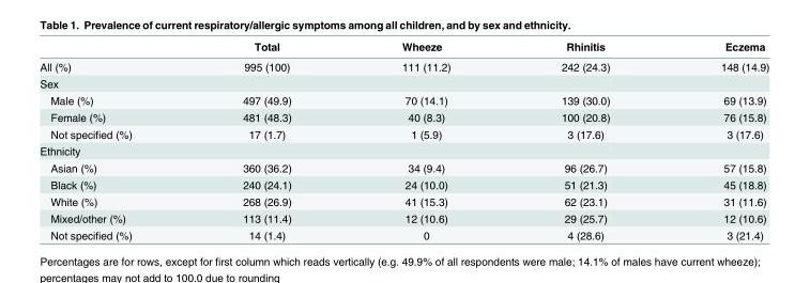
<table><thead><tr><td></td><td>Total</td><td>Wheeze</td><td>Rhinitis</td><td>Eczema</td></tr></thead><tbody><tr><td>All (%)</td><td>995 (100)</td><td>111 (11.2)</td><td>242 (24.3)</td><td>148 (14.9)</td></tr><tr><td colspan="5">Sex</td></tr><tr><td>Male (%)</td><td>497 (49.9)</td><td>70 (14.1)</td><td>139 (30.0)</td><td>69 (13.9)</td></tr><tr><td>Female (%)</td><td>481 (48.3)</td><td>40 (8.3)</td><td>100 (20.8)</td><td>76 (15.8)</td></tr><tr><td>Not specified (%)</td><td>17 (1.7)</td><td>1 (5.9)</td><td>3 (17.6)</td><td>3 (17.6)</td></tr><tr><td colspan="5">Ethnicity</td></tr><tr><td>Asian (%)</td><td>360 (36.2)</td><td>34 (9.4)</td><td>96 (26.7)</td><td>57 (15.8)</td></tr><tr><td>Black (%)</td><td>240 (24.1)</td><td>24 (10.0)</td><td>51 (21.3)</td><td>45 (18.8)</td></tr><tr><td>White (%)</td><td>268 (26.9)</td><td>41 (15.3)</td><td>62 (23.1)</td><td>31 (11.6)</td></tr><tr><td>Mixed/other (%)</td><td>113 (11.4)</td><td>12 (10.6)</td><td>29 (25.7)</td><td>12 (10.6)</td></tr><tr><td>Not specified (%)</td><td>14 (1.4)</td><td>0</td><td>4 (28.6)</td><td>3 (21.4)</td></tr></tbody></table>